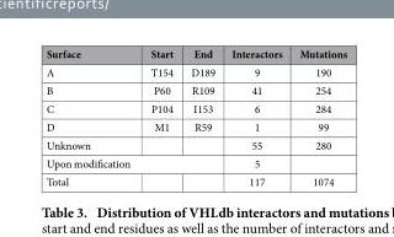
<table><thead><tr><td>Surface</td><td>Start</td><td>End</td><td>Interactors</td><td>Mutations</td></tr></thead><tbody><tr><td>A</td><td>T154</td><td>D189</td><td>9</td><td>190</td></tr><tr><td>B</td><td>P60</td><td>R109</td><td>41</td><td>254</td></tr><tr><td>C</td><td>P104</td><td>I153</td><td>6</td><td>284</td></tr><tr><td>D</td><td>M1</td><td>R59</td><td>1</td><td>99</td></tr><tr><td>Unknown</td><td></td><td></td><td>55</td><td>280</td></tr><tr><td colspan="3">Upon modification</td><td>5</td><td></td></tr><tr><td>Total</td><td></td><td></td><td>117</td><td>1074</td></tr></tbody></table>